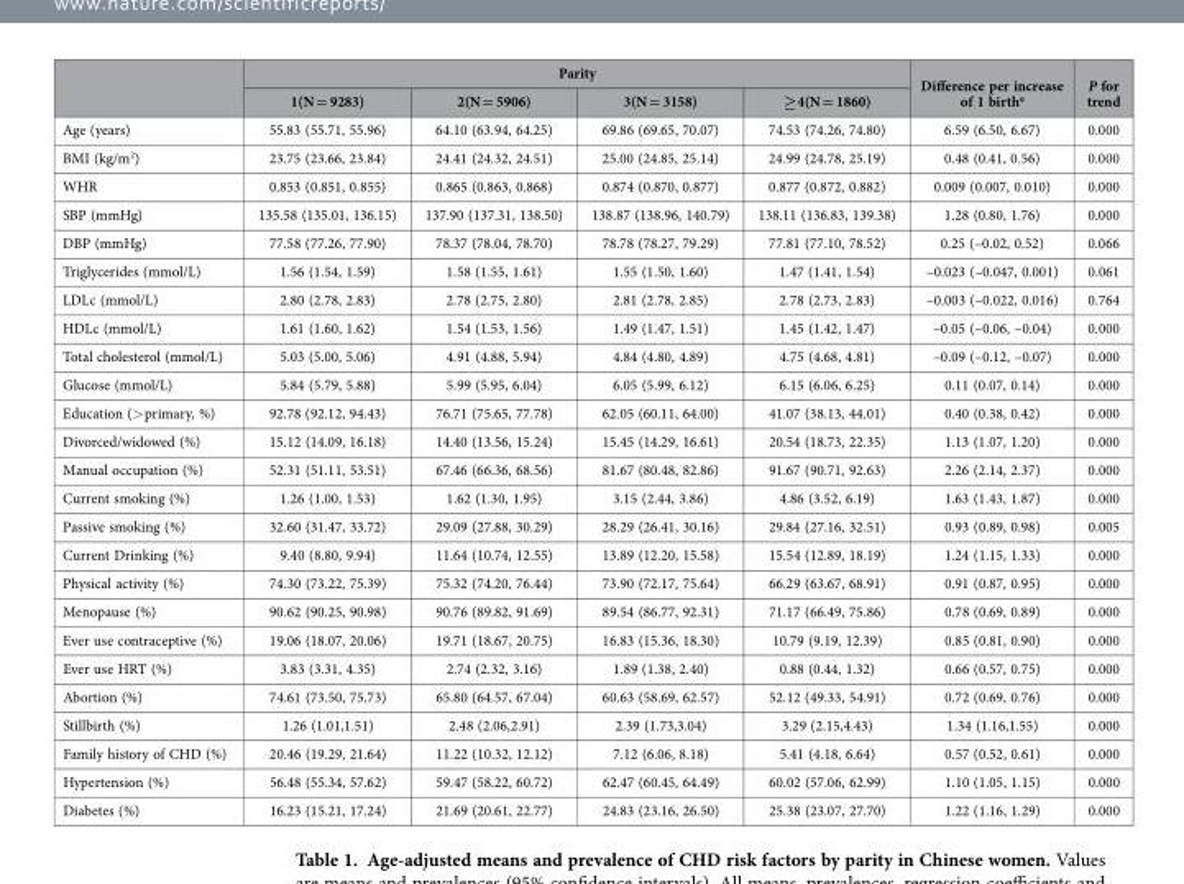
<table><thead><tr><td rowspan="2"></td><td colspan="4">Parity</td><td rowspan="2">Difference per increase of 1 birth<sup>a</sup></td><td rowspan="2">P for trend</td></tr><tr><td>1(N = 9283)</td><td>2(N = 5906)</td><td>3(N = 3158)</td><td>≥ 4(N = 1860)</td></tr></thead><tbody><tr><td>Age (years)</td><td>55.83 (55.71, 55.96)</td><td>64.10 (63.94, 64.25)</td><td>69.86 (69.65, 70.07)</td><td>74.53 (74.26, 74.80)</td><td>6.59 (6.50, 6.67)</td><td>0.000</td></tr><tr><td>BMI (kg/m<sup>2</sup>)</td><td>23.75 (23.66, 23.84)</td><td>24.41 (24.32, 24.51)</td><td>25.00 (24.85, 25.14)</td><td>24.99 (24.78, 25.19)</td><td>0.48 (0.41, 0.56)</td><td>0.000</td></tr><tr><td>WHR</td><td>0.853 (0.851, 0.855)</td><td>0.865 (0.863, 0.868)</td><td>0.874 (0.870, 0.877)</td><td>0.877 (0.872, 0.882)</td><td>0.009 (0.007, 0.010)</td><td>0.000</td></tr><tr><td>SBP (mmHg)</td><td>135.58 (135.01, 136.15)</td><td>137.90 (137.31, 138.50)</td><td>138.87 (138.96, 140.79)</td><td>138.11 (136.83, 139.38)</td><td>1.28 (0.80, 1.76)</td><td>0.000</td></tr><tr><td>DBP (mmHg)</td><td>77.58 (77.26, 77.90)</td><td>78.37 (78.04, 78.70)</td><td>78.78 (78.27, 79.29)</td><td>77.81 (77.10, 78.52)</td><td>0.25 (–0.02, 0.52)</td><td>0.066</td></tr><tr><td>Triglycerides (mmol/L)</td><td>1.56 (1.54, 1.59)</td><td>1.58 (1.55, 1.61)</td><td>1.55 (1.50, 1.60)</td><td>1.47 (1.41, 1.54)</td><td>–0.023 (–0.047, 0.001)</td><td>0.061</td></tr><tr><td>LDLc (mmol/L)</td><td>2.80 (2.78, 2.83)</td><td>2.78 (2.75, 2.80)</td><td>2.81 (2.78, 2.85)</td><td>2.78 (2.73, 2.83)</td><td>–0.003 (–0.022, 0.016)</td><td>0.764</td></tr><tr><td>HDLc (mmol/L)</td><td>1.61 (1.60, 1.62)</td><td>1.54 (1.53, 1.56)</td><td>1.49 (1.47, 1.51)</td><td>1.45 (1.42, 1.47)</td><td>–0.05 (–0.06, –0.04)</td><td>0.000</td></tr><tr><td>Total cholesterol (mmol/L)</td><td>5.03 (5.00, 5.06)</td><td>4.91 (4.88, 5.94)</td><td>4.84 (4.80, 4.89)</td><td>4.75 (4.68, 4.81)</td><td>–0.09 (–0.12, –0.07)</td><td>0.000</td></tr><tr><td>Glucose (mmol/L)</td><td>5.84 (5.79, 5.88)</td><td>5.99 (5.95, 6.04)</td><td>6.05 (5.99, 6.12)</td><td>6.15 (6.06, 6.25)</td><td>0.11 (0.07, 0.14)</td><td>0.000</td></tr><tr><td>Education (&gt; primary, %)</td><td>92.78 (92.12, 94.43)</td><td>76.71 (75.65, 77.78)</td><td>62.05 (60.11, 64.00)</td><td>41.07 (38.13, 44.01)</td><td>0.40 (0.38, 0.42)</td><td>0.000</td></tr><tr><td>Divorced/widowed (%)</td><td>15.12 (14.09, 16.18)</td><td>14.40 (13.56, 15.24)</td><td>15.45 (14.29, 16.61)</td><td>20.54 (18.73, 22.35)</td><td>1.13 (1.07, 1.20)</td><td>0.000</td></tr><tr><td>Manual occupation (%)</td><td>52.31 (51.11, 53.51)</td><td>67.46 (66.36, 68.56)</td><td>81.67 (80.48, 82.86)</td><td>91.67 (90.71, 92.63)</td><td>2.26 (2.14, 2.37)</td><td>0.000</td></tr><tr><td>Current smoking (%)</td><td>1.26 (1.00, 1.53)</td><td>1.62 (1.30, 1.95)</td><td>3.15 (2.44, 3.86)</td><td>4.86 (3.52, 6.19)</td><td>1.63 (1.43, 1.87)</td><td>0.000</td></tr><tr><td>Passive smoking (%)</td><td>32.60 (31.47, 33.72)</td><td>29.09 (27.88, 30.29)</td><td>28.29 (26.41, 30.16)</td><td>29.84 (27.16, 32.51)</td><td>0.93 (0.89, 0.98)</td><td>0.005</td></tr><tr><td>Current Drinking (%)</td><td>9.40 (8.80, 9.94)</td><td>11.64 (10.74, 12.55)</td><td>13.89 (12.20, 15.58)</td><td>15.54 (12.89, 18.19)</td><td>1.24 (1.15, 1.33)</td><td>0.000</td></tr><tr><td>Physical activity (%)</td><td>74.30 (73.22, 75.39)</td><td>75.32 (74.20, 76.44)</td><td>73.90 (72.17, 75.64)</td><td>66.29 (63.67, 68.91)</td><td>0.91 (0.87, 0.95)</td><td>0.000</td></tr><tr><td>Menopause (%)</td><td>90.62 (90.25, 90.98)</td><td>90.76 (89.82, 91.69)</td><td>89.54 (86.77, 92.31)</td><td>71.17 (66.49, 75.86)</td><td>0.78 (0.69, 0.89)</td><td>0.000</td></tr><tr><td>Ever use contraceptive (%)</td><td>19.06 (18.07, 20.06)</td><td>19.71 (18.67, 20.75)</td><td>16.83 (15.36, 18.30)</td><td>10.79 (9.19, 12.39)</td><td>0.85 (0.81, 0.90)</td><td>0.000</td></tr><tr><td>Ever use HRT (%)</td><td>3.83 (3.31, 4.35)</td><td>2.74 (2.32, 3.16)</td><td>1.89 (1.38, 2.40)</td><td>0.88 (0.44, 1.32)</td><td>0.66 (0.57, 0.75)</td><td>0.000</td></tr><tr><td>Abortion (%)</td><td>74.61 (73.50, 75.73)</td><td>65.80 (64.57, 67.04)</td><td>60.63 (58.69, 62.57)</td><td>52.12 (49.33, 54.91)</td><td>0.72 (0.69, 0.76)</td><td>0.000</td></tr><tr><td>Stillbirth (%)</td><td>1.26 (1.01,1.51)</td><td>2.48 (2.06,2.91)</td><td>2.39 (1.73,3.04)</td><td>3.29 (2.15,4.43)</td><td>1.34 (1.16,1.55)</td><td>0.000</td></tr><tr><td>Family history of CHD (%)</td><td>20.46 (19.29, 21.64)</td><td>11.22 (10.32, 12.12)</td><td>7.12 (6.06, 8.18)</td><td>5.41 (4.18, 6.64)</td><td>0.57 (0.52, 0.61)</td><td>0.000</td></tr><tr><td>Hypertension (%)</td><td>56.48 (55.34, 57.62)</td><td>59.47 (58.22, 60.72)</td><td>62.47 (60.45, 64.49)</td><td>60.02 (57.06, 62.99)</td><td>1.10 (1.05, 1.15)</td><td>0.000</td></tr><tr><td>Diabetes (%)</td><td>16.23 (15.21, 17.24)</td><td>21.69 (20.61, 22.77)</td><td>24.83 (23.16, 26.50)</td><td>25.38 (23.07, 27.70)</td><td>1.22 (1.16, 1.29)</td><td>0.000</td></tr></tbody></table>